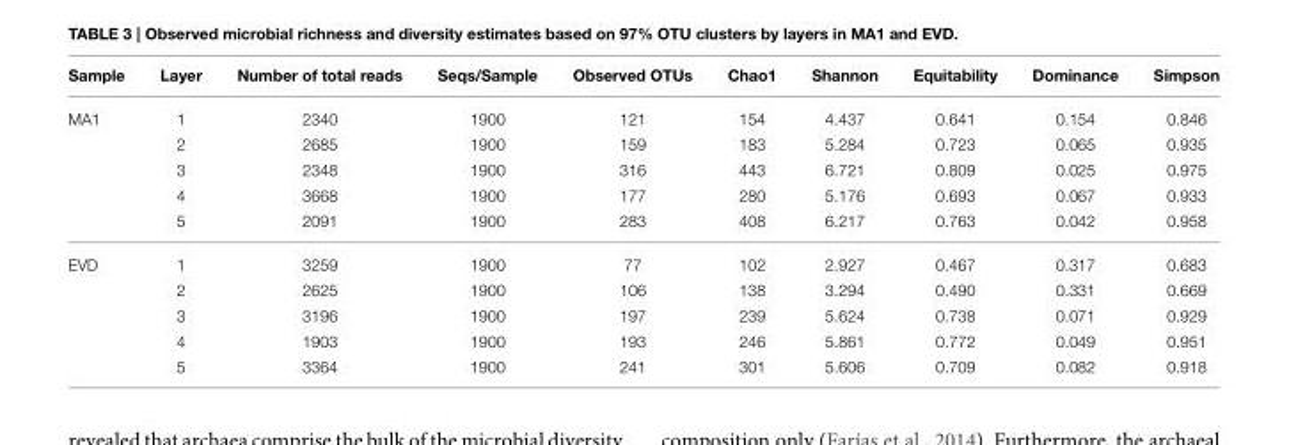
<table><thead><tr><td>Sample</td><td>Layer</td><td>Number of total reads</td><td>Seqs/Sample</td><td>Observed OTUs</td><td>Chao1</td><td>Shannon</td><td>Equitability</td><td>Dominance</td><td>Simpson</td></tr></thead><tbody><tr><td rowspan="5">MA1</td><td>1</td><td>2340</td><td>1900</td><td>121</td><td>154</td><td>4.437</td><td>0.641</td><td>0.154</td><td>0.846</td></tr><tr><td>2</td><td>2685</td><td>1900</td><td>159</td><td>183</td><td>5.284</td><td>0.723</td><td>0.065</td><td>0.935</td></tr><tr><td>3</td><td>2348</td><td>1900</td><td>316</td><td>443</td><td>6.721</td><td>0.809</td><td>0.025</td><td>0.975</td></tr><tr><td>4</td><td>3668</td><td>1900</td><td>177</td><td>280</td><td>5.176</td><td>0.693</td><td>0.067</td><td>0.933</td></tr><tr><td>5</td><td>2091</td><td>1900</td><td>283</td><td>408</td><td>6.217</td><td>0.763</td><td>0.042</td><td>0.958</td></tr><tr><td rowspan="5">EVD</td><td>1</td><td>3259</td><td>1900</td><td>77</td><td>102</td><td>2.927</td><td>0.467</td><td>0.317</td><td>0.683</td></tr><tr><td>2</td><td>2625</td><td>1900</td><td>106</td><td>138</td><td>3.294</td><td>0.490</td><td>0.331</td><td>0.669</td></tr><tr><td>3</td><td>3196</td><td>1900</td><td>197</td><td>239</td><td>5.624</td><td>0.738</td><td>0.071</td><td>0.929</td></tr><tr><td>4</td><td>1903</td><td>1900</td><td>193</td><td>246</td><td>5.861</td><td>0.772</td><td>0.049</td><td>0.951</td></tr><tr><td>5</td><td>3364</td><td>1900</td><td>241</td><td>301</td><td>5.606</td><td>0.709</td><td>0.082</td><td>0.918</td></tr></tbody></table>